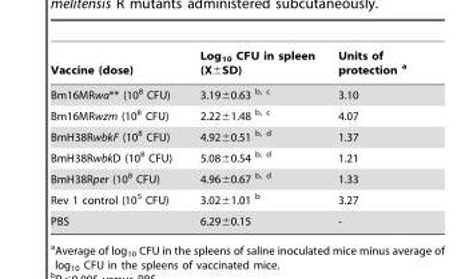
<table><thead><tr><td>Vaccine (dose)</td><td>Log<sub>10</sub> CFU in spleen (X±SD)</td><td>Units of protection a</td></tr></thead><tbody><tr><td>Bm16MRwa** (10<sup>8</sup> CFU)</td><td>3.19±0.63 b, c</td><td>3.10</td></tr><tr><td>Bm16MRwzm (10<sup>8</sup> CFU)</td><td>2.22±1.48 b, c</td><td>4.07</td></tr><tr><td>BmH38RwbkF (10<sup>8</sup> CFU)</td><td>4.92±0.51 b, d</td><td>1.37</td></tr><tr><td>BmH38RwbkD (10<sup>8</sup> CFU)</td><td>5.08±0.54 b, d</td><td>1.21</td></tr><tr><td>BmH38Rper (10<sup>8</sup> CFU)</td><td>4.96±0.67 b, d</td><td>1.33</td></tr><tr><td>Rev 1 control (10<sup>5</sup> CFU)</td><td>3.02±1.01 b</td><td>3.27</td></tr><tr><td>PBS</td><td>6.29±0.15</td><td>-</td></tr></tbody></table>